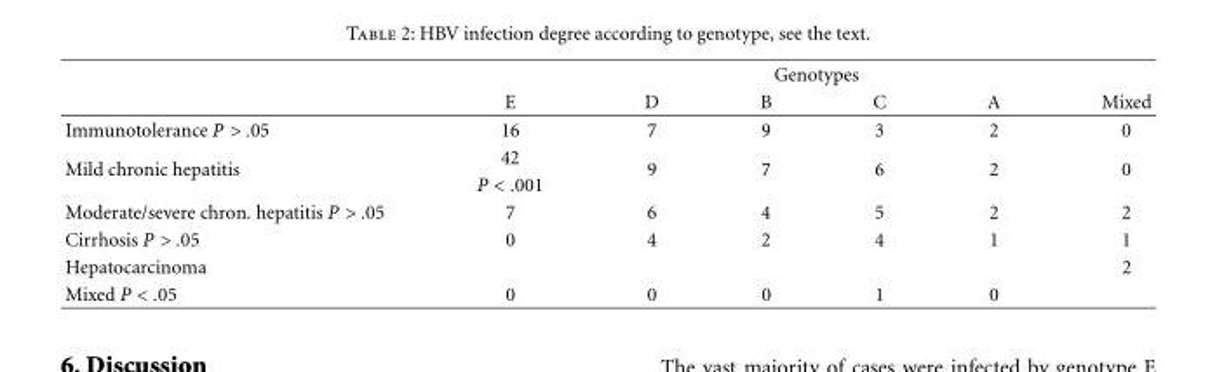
<table><thead><tr><td rowspan="2"></td><td colspan="6">Genotypes</td></tr><tr><td>E</td><td>D</td><td>B</td><td>C</td><td>A</td><td>Mixed</td></tr></thead><tbody><tr><td>Immunotolerance P &gt; .05</td><td>16</td><td>7</td><td>9</td><td>3</td><td>2</td><td>0</td></tr><tr><td rowspan="2">Mild chronic hepatitis</td><td>42</td><td rowspan="2">9</td><td rowspan="2">7</td><td rowspan="2">6</td><td rowspan="2">2</td><td rowspan="2">0</td></tr><tr><td>P &lt; .001</td></tr><tr><td>Moderate/severe chron. hepatitis P &gt; .05</td><td>7</td><td>6</td><td>4</td><td>5</td><td>2</td><td>2</td></tr><tr><td>Cirrhosis P &gt; .05</td><td>0</td><td>4</td><td>2</td><td>4</td><td>1</td><td>1</td></tr><tr><td>Hepatocarcinoma</td><td></td><td></td><td></td><td></td><td></td><td>2</td></tr><tr><td>Mixed P &lt; .05</td><td>0</td><td>0</td><td>0</td><td>1</td><td>0</td><td></td></tr></tbody></table>